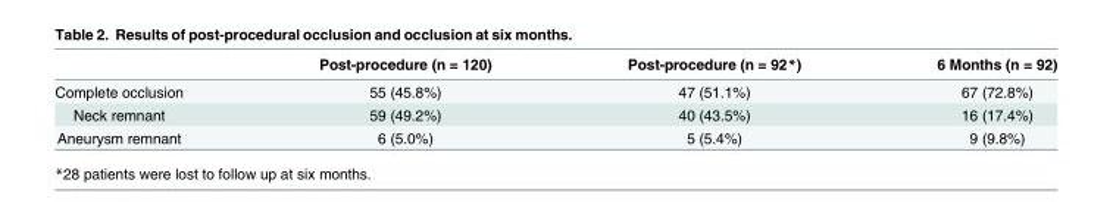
<table><thead><tr><td></td><td>Post-procedure (n = 120)</td><td>Post-procedure (n = 92*)</td><td>6 Months (n = 92)</td></tr></thead><tbody><tr><td>Complete occlusion</td><td>55 (45.8%)</td><td>47 (51.1%)</td><td>67 (72.8%)</td></tr><tr><td>Neck remnant</td><td>59 (49.2%)</td><td>40 (43.5%)</td><td>16 (17.4%)</td></tr><tr><td>Aneurysm remnant</td><td>6 (5.0%)</td><td>5 (5.4%)</td><td>9 (9.8%)</td></tr></tbody></table>